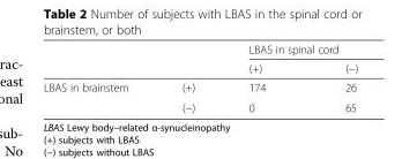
<table><thead><tr><td rowspan="2"></td><td rowspan="2"></td><td colspan="2">LBAS in spinal cord</td></tr><tr><td>(+)</td><td>(−)</td></tr></thead><tbody><tr><td rowspan="2">LBAS in brainstem</td><td>(+)</td><td>174</td><td>26</td></tr><tr><td>(−)</td><td>0</td><td>65</td></tr></tbody></table>